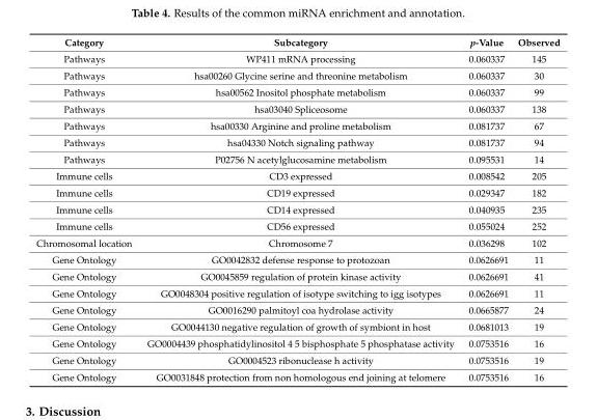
<table><thead><tr><td>Category</td><td>Subcategory</td><td>p-Value</td><td>Observed</td></tr></thead><tbody><tr><td>Pathways</td><td>WP411 mRNA processing</td><td>0.060337</td><td>145</td></tr><tr><td>Pathways</td><td>hsa00260 Glycine serine and threonine metabolism</td><td>0.060337</td><td>30</td></tr><tr><td>Pathways</td><td>hsa00562 Inositol phosphate metabolism</td><td>0.060337</td><td>99</td></tr><tr><td>Pathways</td><td>hsa03040 Spliceosome</td><td>0.060337</td><td>138</td></tr><tr><td>Pathways</td><td>hsa00330 Arginine and proline metabolism</td><td>0.081737</td><td>67</td></tr><tr><td>Pathways</td><td>hsa04330 Notch signaling pathway</td><td>0.081737</td><td>94</td></tr><tr><td>Pathways</td><td>P02756 N acetylglucosamine metabolism</td><td>0.095531</td><td>14</td></tr><tr><td>Immune cells</td><td>CD3 expressed</td><td>0.008542</td><td>205</td></tr><tr><td>Immune cells</td><td>CD19 expressed</td><td>0.029347</td><td>182</td></tr><tr><td>Immune cells</td><td>CD14 expressed</td><td>0.040935</td><td>235</td></tr><tr><td>Immune cells</td><td>CD56 expressed</td><td>0.055024</td><td>252</td></tr><tr><td>Chromosomal location</td><td>Chromosome 7</td><td>0.036298</td><td>102</td></tr><tr><td>Gene Ontology</td><td>GO0042832 defense response to protozoan</td><td>0.0626691</td><td>11</td></tr><tr><td>Gene Ontology</td><td>GO0045859 regulation of protein kinase activity</td><td>0.0626691</td><td>41</td></tr><tr><td>Gene Ontology</td><td>GO0048304 positive regulation of isotype switching to igg isotypes</td><td>0.0626691</td><td>11</td></tr><tr><td>Gene Ontology</td><td>GO0016290 palmitoyl coa hydrolase activity</td><td>0.0665877</td><td>24</td></tr><tr><td>Gene Ontology</td><td>GO0044130 negative regulation of growth of symbiont in host</td><td>0.0681013</td><td>19</td></tr><tr><td>Gene Ontology</td><td>GO0004439 phosphatidylinositol 4 5 bisphosphate 5 phosphatase activity</td><td>0.0753516</td><td>16</td></tr><tr><td>Gene Ontology</td><td>GO0004523 ribonuclease h activity</td><td>0.0753516</td><td>19</td></tr><tr><td>Gene Ontology</td><td>GO0031848 protection from non homologous end joining at telomere</td><td>0.0753516</td><td>16</td></tr></tbody></table>